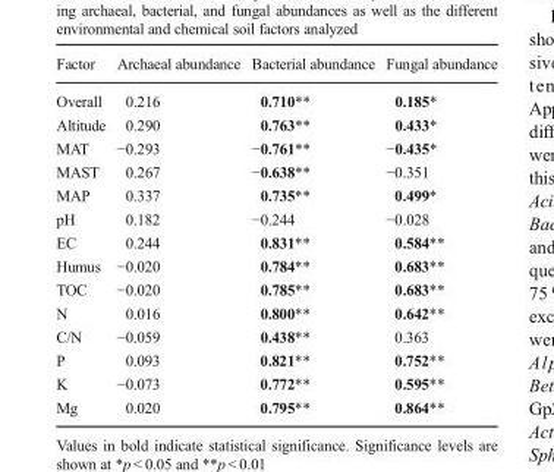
<table><thead><tr><td>Factor</td><td>Archaeal abundance</td><td>Bacterial abundance</td><td>Fungal abundance</td></tr></thead><tbody><tr><td>Overall</td><td>0.216</td><td>0.710**</td><td>0.185*</td></tr><tr><td>Altitude</td><td>0.290</td><td>0.763**</td><td>0.433*</td></tr><tr><td>MAT</td><td>−0.293</td><td>−0.761**</td><td>−0.435*</td></tr><tr><td>MAST</td><td>0.267</td><td>−0.638**</td><td>−0.351</td></tr><tr><td>MAP</td><td>0.337</td><td>0.735**</td><td>0.499*</td></tr><tr><td>pH</td><td>0.182</td><td>−0.244</td><td>−0.028</td></tr><tr><td>EC</td><td>0.244</td><td>0.831**</td><td>0.584**</td></tr><tr><td>Humus</td><td>−0.020</td><td>0.784**</td><td>0.683**</td></tr><tr><td>TOC</td><td>−0.020</td><td>0.785**</td><td>0.683**</td></tr><tr><td>N</td><td>0.016</td><td>0.800**</td><td>0.642**</td></tr><tr><td>C/N</td><td>−0.059</td><td>0.438**</td><td>0.363</td></tr><tr><td>P</td><td>0.093</td><td>0.821**</td><td>0.752**</td></tr><tr><td>K</td><td>−0.073</td><td>0.772**</td><td>0.595**</td></tr><tr><td>Mg</td><td>0.020</td><td>0.795**</td><td>0.864**</td></tr></tbody></table>